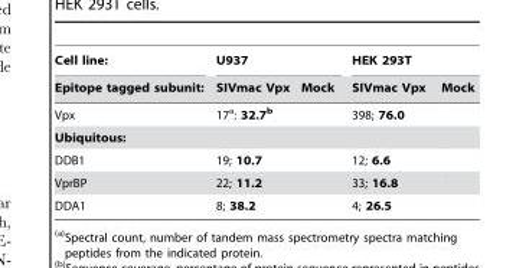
<table><thead><tr><td rowspan="2">Cell line: Epitope tagged subunit:</td><td colspan="2">U937</td><td colspan="2">HEK 293T</td></tr><tr><td>SIVmac Vpx</td><td>Mock</td><td>SIVmac Vpx</td><td>Mock</td></tr></thead><tbody><tr><td>Vpx</td><td>17<sup>a</sup>: 32.7b</td><td></td><td>398; 76.0</td><td></td></tr><tr><td colspan="5">Ubiquitous:</td></tr><tr><td>DDB1</td><td>19; 10.7</td><td></td><td>12; 6.6</td><td></td></tr><tr><td>VprBP</td><td>22; 11.2</td><td></td><td>33; 16.8</td><td></td></tr><tr><td>DDA1</td><td>8; 38.2</td><td></td><td>4; 26.5</td><td></td></tr></tbody></table>